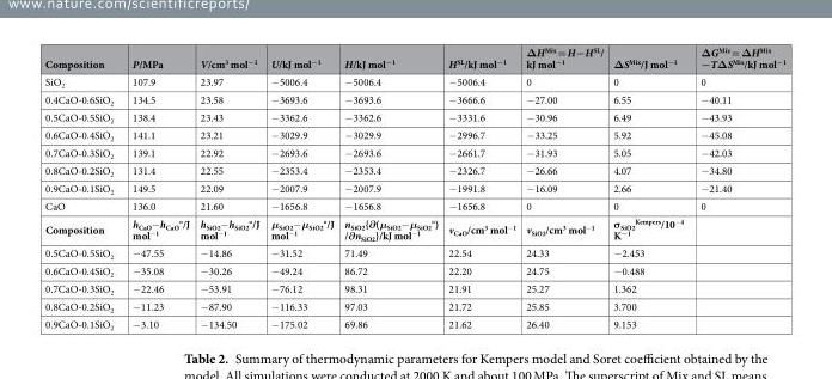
<table><thead><tr><td>Composition</td><td>P/MPa</td><td>V/cm<sup>3</sup> mol<sup>−1</sup></td><td>U/kJ mol<sup>−1</sup></td><td>H/kJ mol<sup>−1</sup></td><td>H<sup>SL</sup>/kJ mol<sup>−1</sup></td><td>ΔH<sup>Mix</sup> = H−H<sup>SL</sup>/ kJ mol<sup>−1</sup></td><td>ΔS<sup>Mix</sup>/J mol<sup>−1</sup></td><td>ΔG<sup>Mix</sup> = ΔH<sup>Mix</sup> −TΔS<sup>Mix</sup>/kJ mol<sup>−1</sup></td></tr></thead><tbody><tr><td>SiO<sub>2</sub></td><td>107.9</td><td>23.97</td><td>−5006.4</td><td>−5006.4</td><td>−5006.4</td><td>0</td><td>0</td><td>0</td></tr><tr><td>0.4CaO-0.6SiO<sub>2</sub></td><td>134.5</td><td>23.58</td><td>−3693.6</td><td>−3693.6</td><td>−3666.6</td><td>−27.00</td><td>6.55</td><td>−40.11</td></tr><tr><td>0.5CaO-0.5SiO<sub>2</sub></td><td>138.4</td><td>23.43</td><td>−3362.6</td><td>−3362.6</td><td>−3331.6</td><td>−30.96</td><td>6.49</td><td>−43.93</td></tr><tr><td>0.6CaO-0.4SiO<sub>2</sub></td><td>141.1</td><td>23.21</td><td>−3029.9</td><td>−3029.9</td><td>−2996.7</td><td>−33.25</td><td>5.92</td><td>−45.08</td></tr><tr><td>0.7CaO-0.3SiO<sub>2</sub></td><td>139.1</td><td>22.92</td><td>−2693.6</td><td>−2693.6</td><td>−2661.7</td><td>−31.93</td><td>5.05</td><td>−42.03</td></tr><tr><td>0.8CaO-0.2SiO<sub>2</sub></td><td>131.4</td><td>22.55</td><td>−2353.4</td><td>−2353.4</td><td>−2326.7</td><td>−26.66</td><td>4.07</td><td>−34.80</td></tr><tr><td>0.9CaO-0.1SiO<sub>2</sub></td><td>149.5</td><td>22.09</td><td>−2007.9</td><td>−2007.9</td><td>−1991.8</td><td>−16.09</td><td>2.66</td><td>−21.40</td></tr><tr><td>CaO</td><td>136.0</td><td>21.60</td><td>−1656.8</td><td>−1656.8</td><td>−1656.8</td><td>0</td><td>0</td><td>0</td></tr><tr><td>Composition</td><td>h<sub>CaO</sub>−h<sub>CaO</sub>°/J mol<sup>−1</sup></td><td>h<sub>SiO2</sub>−h<sub>SiO2</sub>°/J mol<sup>−1</sup></td><td>μ<sub>SiO2</sub>−μ<sub>SiO2</sub>°/J mol<sup>−1</sup></td><td>nSiO2{∂(μSiO2−μSiO2°) /∂nSiO2}/kJ mol−1</td><td>v<sub>CaO</sub>/cm<sup>3</sup> mol<sup>−1</sup></td><td>v<sub>SiO2</sub>/cm<sup>3</sup> mol<sup>−1</sup></td><td>σ<sub>SiO2</sub> <sup>Kempers</sup>/10<sup>−4</sup> K<sup>−1</sup></td><td></td></tr><tr><td>0.5CaO-0.5SiO<sub>2</sub></td><td>−47.55</td><td>−14.86</td><td>−31.52</td><td>71.49</td><td>22.54</td><td>24.33</td><td>−2.453</td><td></td></tr><tr><td>0.6CaO-0.4SiO<sub>2</sub></td><td>−35.08</td><td>−30.26</td><td>−49.24</td><td>86.72</td><td>22.20</td><td>24.75</td><td>−0.488</td><td></td></tr><tr><td>0.7CaO-0.3SiO<sub>2</sub></td><td>−22.46</td><td>−53.91</td><td>−76.12</td><td>98.31</td><td>21.91</td><td>25.27</td><td>1.362</td><td></td></tr><tr><td>0.8CaO-0.2SiO<sub>2</sub></td><td>−11.23</td><td>−87.90</td><td>−116.33</td><td>97.03</td><td>21.72</td><td>25.85</td><td>3.700</td><td></td></tr><tr><td>0.9CaO-0.1SiO<sub>2</sub></td><td>−3.10</td><td>−134.50</td><td>−175.02</td><td>69.86</td><td>21.62</td><td>26.40</td><td>9.153</td><td></td></tr></tbody></table>